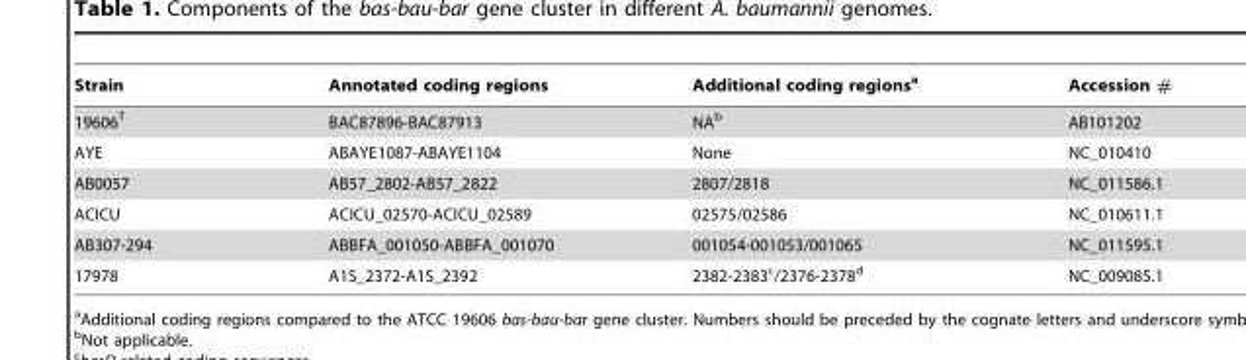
<table><thead><tr><td>Strain</td><td>Annotated coding regions</td><td>Additional coding regions<sup>a</sup></td><td>Accession #</td></tr></thead><tbody><tr><td>19606<sup>T</sup></td><td>BAC87896-BAC87913</td><td>NA<sup>b</sup></td><td>AB101202</td></tr><tr><td>AYE</td><td>ABAYE1087-ABAYE1104</td><td>None</td><td>NC_010410</td></tr><tr><td>AB0057</td><td>AB57_2802-AB57_2822</td><td>2807/2818</td><td>NC_011586.1</td></tr><tr><td>ACICU</td><td>ACICU_02570-ACICU_02589</td><td>02575/02586</td><td>NC_010611.1</td></tr><tr><td>AB307-294</td><td>ABBFA_001050-ABBFA_001070</td><td>001054-001053/001065</td><td>NC_011595.1</td></tr><tr><td>17978</td><td>A1S_2372-A1S_2392</td><td>2382-2383<sup>c</sup>/2376-2378<sup>d</sup></td><td>NC_009085.1</td></tr></tbody></table>